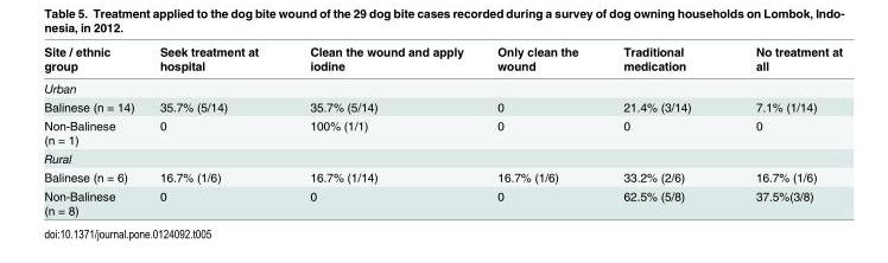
<table><thead><tr><td>Site / ethnic group</td><td>Seek treatment at hospital</td><td>Clean the wound and apply iodine</td><td>Only clean the wound</td><td>Traditional medication</td><td>No treatment at all</td></tr></thead><tbody><tr><td colspan="6">Urban</td></tr><tr><td>Balinese (n = 14)</td><td>35.7% (5/14)</td><td>35.7% (5/14)</td><td>0</td><td>21.4% (3/14)</td><td>7.1% (1/14)</td></tr><tr><td>Non-Balinese (n = 1)</td><td>0</td><td>100% (1/1)</td><td>0</td><td>0</td><td>0</td></tr><tr><td colspan="6">Rural</td></tr><tr><td>Balinese (n = 6)</td><td>16.7% (1/6)</td><td>16.7% (1/14)</td><td>16.7% (1/6)</td><td>33.2% (2/6)</td><td>16.7% (1/6)</td></tr><tr><td>Non-Balinese (n = 8)</td><td>0</td><td>0</td><td>0</td><td>62.5% (5/8)</td><td>37.5%(3/8)</td></tr></tbody></table>